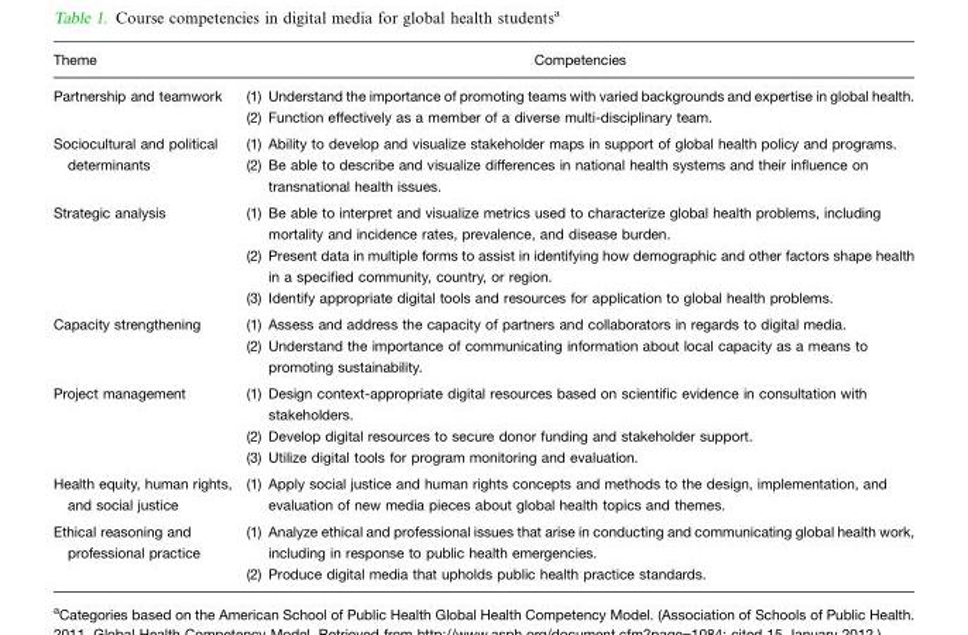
<table><thead><tr><td>Theme</td><td>Competencies</td></tr></thead><tbody><tr><td>Partnership and teamwork</td><td>(1) Understand the importance of promoting teams with varied backgrounds and expertise in global health. (2) Function effectively as a member of a diverse multi-disciplinary team.</td></tr><tr><td>Sociocultural and political determinants</td><td>(1) Ability to develop and visualize stakeholder maps in support of global health policy and programs. (2) Be able to describe and visualize differences in national health systems and their influence on transnational health issues.</td></tr><tr><td>Strategic analysis</td><td>(1) Be able to interpret and visualize metrics used to characterize global health problems, including mortality and incidence rates, prevalence, and disease burden. (2) Present data in multiple forms to assist in identifying how demographic and other factors shape health in a specified community, country, or region. (3) Identify appropriate digital tools and resources for application to global health problems.</td></tr><tr><td>Capacity strengthening</td><td>(1) Assess and address the capacity of partners and collaborators in regards to digital media. (2) Understand the importance of communicating information about local capacity as a means to promoting sustainability.</td></tr><tr><td>Project management</td><td>(1) Design context-appropriate digital resources based on scientific evidence in consultation with stakeholders. (2) Develop digital resources to secure donor funding and stakeholder support. (3) Utilize digital tools for program monitoring and evaluation.</td></tr><tr><td>Health equity, human rights, and social justice</td><td>(1) Apply social justice and human rights concepts and methods to the design, implementation, and evaluation of new media pieces about global health topics and themes.</td></tr><tr><td>Ethical reasoning and professional practice</td><td>(1) Analyze ethical and professional issues that arise in conducting and communicating global health work, including in response to public health emergencies. (2) Produce digital media that upholds public health practice standards.</td></tr></tbody></table>